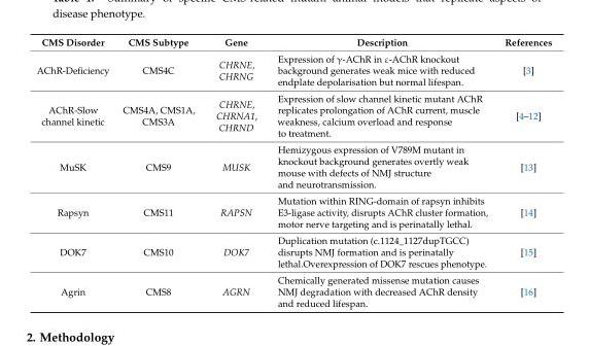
<table><thead><tr><td>CMS Disorder</td><td>CMS Subtype</td><td>Gene</td><td>Description</td><td>References</td></tr></thead><tbody><tr><td>AChR-Deficiency</td><td>CMS4C</td><td>CHRNE, CHRNG</td><td>Expression of γ-AChR in ε-AChR knockout background generates weak mice with reduced endplate depolarisation but normal lifespan.</td><td>[3]</td></tr><tr><td>AChR-Slow channel kinetic</td><td>CMS4A, CMS1A, CMS3A</td><td>CHRNE, CHRNA1, CHRND</td><td>Expression of slow channel kinetic mutant AChR replicates prolongation of AChR current, muscle weakness, calcium overload and response to treatment.</td><td>[4–12]</td></tr><tr><td>MuSK</td><td>CMS9</td><td>MUSK</td><td>Hemizygous expression of V789M mutant in knockout background generates overtly weak mouse with defects of NMJ structure and neurotransmission.</td><td>[13]</td></tr><tr><td>Rapsyn</td><td>CMS11</td><td>RAPSN</td><td>Mutation within RING-domain of rapsyn inhibits E3-ligase activity, disrupts AChR cluster formation, motor nerve targeting and is perinatally lethal.</td><td>[14]</td></tr><tr><td>DOK7</td><td>CMS10</td><td>DOK7</td><td>Duplication mutation (c.1124_1127dupTGCC) disrupts NMJ formation and is perinatally lethal.Overexpression of DOK7 rescues phenotype.</td><td>[15]</td></tr><tr><td>Agrin</td><td>CMS8</td><td>AGRN</td><td>Chemically generated missense mutation causes NMJ degradation with decreased AChR density and reduced lifespan.</td><td>[16]</td></tr></tbody></table>